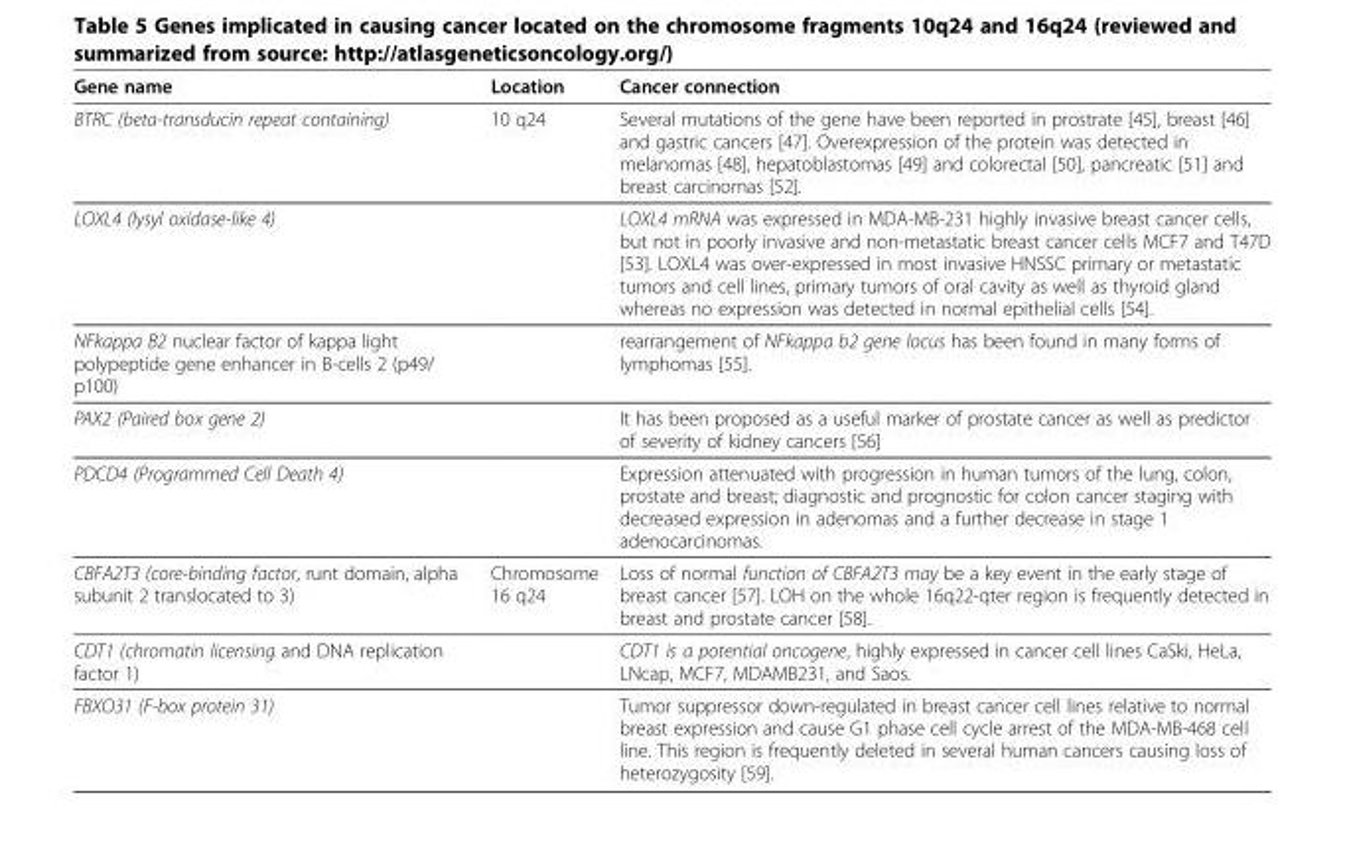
<table><thead><tr><td>Gene name</td><td>Location</td><td>Cancer connection</td></tr></thead><tbody><tr><td>BTRC (beta-transducin repeat containing)</td><td>10 q24</td><td>Several mutations of the gene have been reported in prostrate [45], breast [46] and gastric cancers [47]. Overexpression of the protein was detected in melanomas [48], hepatoblastomas [49] and colorectal [50], pancreatic [51] and breast carcinomas [52].</td></tr><tr><td>LOXL4 (lysyl oxidase-like 4)</td><td></td><td>LOXL4 mRNA was expressed in MDA-MB-231 highly invasive breast cancer cells, but not in poorly invasive and non-metastatic breast cancer cells MCF7 and T47D [53]. LOXL4 was over-expressed in most invasive HNSSC primary or metastatic tumors and cell lines, primary tumors of oral cavity as well as thyroid gland whereas no expression was detected in normal epithelial cells [54].</td></tr><tr><td>NFkappa B2 nuclear factor of kappa light polypeptide gene enhancer in B-cells 2 (p49/ p100)</td><td></td><td>rearrangement of NFkappa b2 gene locus has been found in many forms of lymphomas [55].</td></tr><tr><td>PAX2 (Paired box gene 2)</td><td></td><td>It has been proposed as a useful marker of prostate cancer as well as predictor of severity of kidney cancers [56]</td></tr><tr><td>PDCD4 (Programmed Cell Death 4)</td><td></td><td>Expression attenuated with progression in human tumors of the lung, colon, prostate and breast; diagnostic and prognostic for colon cancer staging with decreased expression in adenomas and a further decrease in stage 1 adenocarcinomas.</td></tr><tr><td>CBFA2T3 (core-binding factor, runt domain, alpha subunit 2 translocated to 3)</td><td>Chromosome 16 q24</td><td>Loss of normal function of CBFA2T3 may be a key event in the early stage of breast cancer [57]. LOH on the whole 16q22-qter region is frequently detected in breast and prostate cancer [58].</td></tr><tr><td>CDT1 (chromatin licensing and DNA replication factor 1)</td><td></td><td>CDT1 is a potential oncogene, highly expressed in cancer cell lines CaSki, HeLa, LNcap, MCF7, MDAMB231, and Saos.</td></tr><tr><td>FBXO31 (F-box protein 31)</td><td></td><td>Tumor suppressor down-regulated in breast cancer cell lines relative to normal breast expression and cause G1 phase cell cycle arrest of the MDA-MB-468 cell line. This region is frequently deleted in several human cancers causing loss of heterozygosity [59].</td></tr></tbody></table>